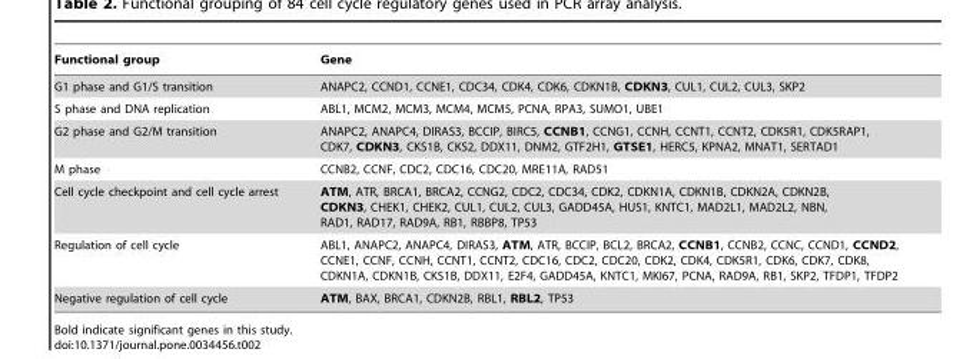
<table><thead><tr><td>Functional group</td><td>Gene</td></tr></thead><tbody><tr><td>G1 phase and G1/S transition</td><td>ANAPC2, CCND1, CCNE1, CDC34, CDK4, CDK6, CDKN1B, CDKN3, CUL1, CUL2, CUL3, SKP2</td></tr><tr><td>S phase and DNA replication</td><td>ABL1, MCM2, MCM3, MCM4, MCM5, PCNA, RPA3, SUMO1, UBE1</td></tr><tr><td>G2 phase and G2/M transition</td><td>ANAPC2, ANAPC4, DIRAS3, BCCIP, BIRC5, CCNB1, CCNG1, CCNH, CCNT1, CCNT2, CDK5R1, CDK5RAP1, CDK7, CDKN3, CKS1B, CKS2, DDX11, DNM2, GTF2H1, GTSE1, HERC5, KPNA2, MNAT1, SERTAD1</td></tr><tr><td>M phase</td><td>CCNB2, CCNF, CDC2, CDC16, CDC20, MRE11A, RAD51</td></tr><tr><td>Cell cycle checkpoint and cell cycle arrest</td><td>ATM, ATR, BRCA1, BRCA2, CCNG2, CDC2, CDC34, CDK2, CDKN1A, CDKN1B, CDKN2A, CDKN2B, CDKN3, CHEK1, CHEK2, CUL1, CUL2, CUL3, GADD45A, HUS1, KNTC1, MAD2L1, MAD2L2, NBN, RAD1, RAD17, RAD9A, RB1, RBBP8, TP53</td></tr><tr><td>Regulation of cell cycle</td><td>ABL1, ANAPC2, ANAPC4, DIRAS3, ATM, ATR, BCCIP, BCL2, BRCA2, CCNB1, CCNB2, CCNC, CCND1, CCND2, CCNE1, CCNF, CCNH, CCNT1, CCNT2, CDC16, CDC2, CDC20, CDK2, CDK4, CDK5R1, CDK6, CDK7, CDK8, CDKN1A, CDKN1B, CKS1B, DDX11, E2F4, GADD45A, KNTC1, MKI67, PCNA, RAD9A, RB1, SKP2, TFDP1, TFDP2</td></tr><tr><td>Negative regulation of cell cycle</td><td>ATM, BAX, BRCA1, CDKN2B, RBL1, RBL2, TP53</td></tr></tbody></table>